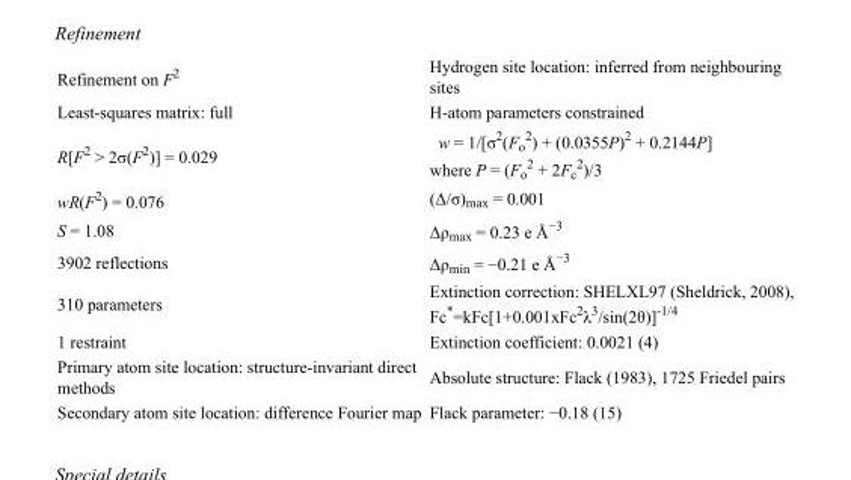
<table><tbody><tr><td>Refinement on F<sup>2</sup></td><td>Hydrogen site location: inferred from neighbouring sites</td></tr><tr><td>Least-squares matrix: full</td><td>H-atom parameters constrained</td></tr><tr><td>R[F<sup>2</sup> &gt; 2σ(F<sup>2</sup>)] = 0.029</td><td>w = 1/[σ<sup>2</sup>(F<sub>o</sub> <sup>2</sup>) + (0.0355P)<sup>2</sup> + 0.2144P] where P = (F<sub>o</sub> <sup>2</sup> + 2F<sub>c</sub> <sup>2</sup>)/3</td></tr><tr><td>wR(F<sup>2</sup>) = 0.076</td><td>(Δ/σ)<sub>max</sub> = 0.001</td></tr><tr><td>S = 1.08</td><td>Δρ<sub>max</sub> = 0.23 e Å<sup>−3</sup></td></tr><tr><td>3902 reflections</td><td>Δρ<sub>min</sub> = −0.21 e Å<sup>−3</sup></td></tr><tr><td>310 parameters</td><td>Extinction correction: SHELXL97 (Sheldrick, 2008), Fc*=kFc[1+0.001xFc<sup>2</sup>λ<sup>3</sup>/sin(2θ)]<sup>-1/4</sup></td></tr><tr><td>1 restraint</td><td>Extinction coefficient: 0.0021 (4)</td></tr><tr><td>Primary atom site location: structure-invariant direct methods</td><td>Absolute structure: Flack (1983), 1725 Friedel pairs</td></tr><tr><td>Secondary atom site location: difference Fourier map</td><td>Flack parameter: −0.18 (15)</td></tr></tbody></table>